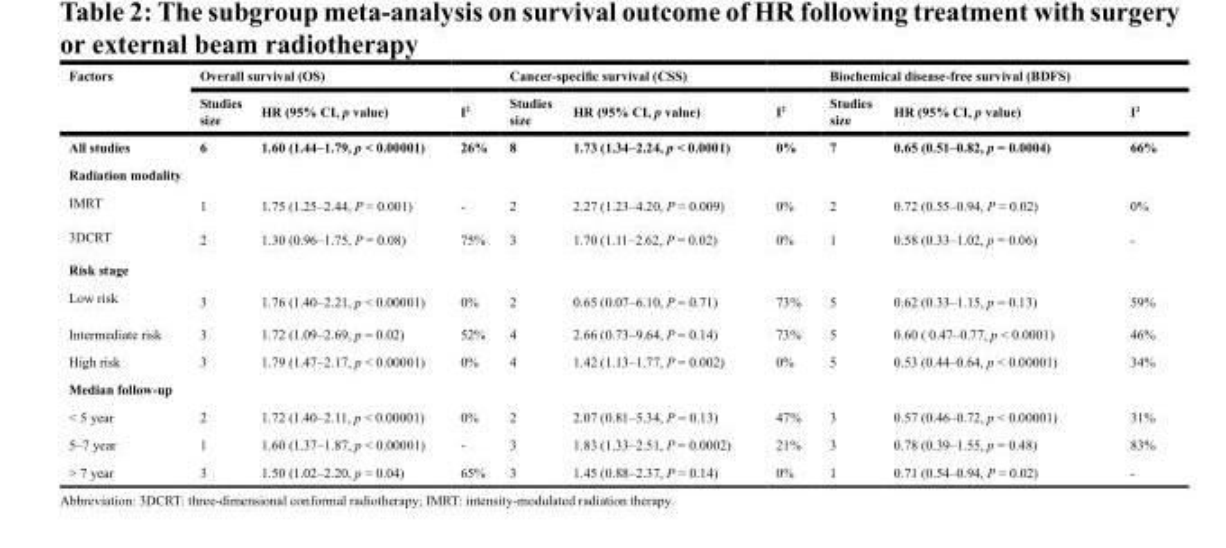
<table><thead><tr><td rowspan="2">Factors</td><td colspan="3">Overall survival (OS)</td><td colspan="3">Cancer-specific survival (CSS)</td><td colspan="3">Biochemical disease-free survival (BDFS)</td></tr><tr><td>Studies size</td><td>HR (95% CI, p value)</td><td>I<sup>2</sup></td><td>Studies size</td><td>HR (95% CI, p value)</td><td>I<sup>2</sup></td><td>Studies size</td><td>HR (95% CI, p value)</td><td>I<sup>2</sup></td></tr></thead><tbody><tr><td>All studies</td><td>6</td><td>1.60 (1.44–1.79, p &lt; 0.00001)</td><td>26%</td><td>8</td><td>1.73 (1.34–2.24, p &lt; 0.0001)</td><td>0%</td><td>7</td><td>0.65 (0.51–0.82, p = 0.0004)</td><td>66%</td></tr><tr><td colspan="10">Radiation modality</td></tr><tr><td>IMRT</td><td>1</td><td>1.75 (1.25–2.44, P = 0.001)</td><td>-</td><td>2</td><td>2.27 (1.23–4.20, P = 0.009)</td><td>0%</td><td>2</td><td>0.72 (0.55–0.94, P = 0.02)</td><td>0%</td></tr><tr><td>3DCRT</td><td>2</td><td>1.30 (0.96–1.75, P = 0.08)</td><td>75%</td><td>3</td><td>1.70 (1.11–2.62, P = 0.02)</td><td>0%</td><td>1</td><td>0.58 (0.33–1.02, p = 0.06)</td><td>-</td></tr><tr><td colspan="10">Risk stage</td></tr><tr><td>Low risk</td><td>3</td><td>1.76 (1.40–2.21, p &lt; 0.00001)</td><td>0%</td><td>2</td><td>0.65 (0.07–6.10, P = 0.71)</td><td>73%</td><td>5</td><td>0.62 (0.33–1.15, p = 0.13)</td><td>59%</td></tr><tr><td>Intermediate risk</td><td>3</td><td>1.72 (1.09–2.69, p = 0.02)</td><td>52%</td><td>4</td><td>2.66 (0.73–9.64, P = 0.14)</td><td>73%</td><td>5</td><td>0.60 ( 0.47–0.77, p &lt; 0.0001)</td><td>46%</td></tr><tr><td>High risk</td><td>3</td><td>1.79 (1.47–2.17, p &lt; 0.00001)</td><td>0%</td><td>4</td><td>1.42 (1.13–1.77, P = 0.002)</td><td>0%</td><td>5</td><td>0.53 (0.44–0.64, p &lt; 0.00001)</td><td>34%</td></tr><tr><td colspan="10">Median follow-up</td></tr><tr><td>&lt; 5 year</td><td>2</td><td>1.72 (1.40–2.11, p &lt; 0.00001)</td><td>0%</td><td>2</td><td>2.07 (0.81–5.34, P = 0.13)</td><td>47%</td><td>3</td><td>0.57 (0.46–0.72, p &lt; 0.00001)</td><td>31%</td></tr><tr><td>5–7 year</td><td>1</td><td>1.60 (1.37–1.87, p &lt; 0.00001)</td><td>-</td><td>3</td><td>1.83 (1.33–2.51, P = 0.0002)</td><td>21%</td><td>3</td><td>0.78 (0.39–1.55, p = 0.48)</td><td>83%</td></tr><tr><td>&gt; 7 year</td><td>3</td><td>1.50 (1.02–2.20, p = 0.04)</td><td>65%</td><td>3</td><td>1.45 (0.88–2.37, P = 0.14)</td><td>0%</td><td>1</td><td>0.71 (0.54–0.94, P = 0.02)</td><td>-</td></tr></tbody></table>